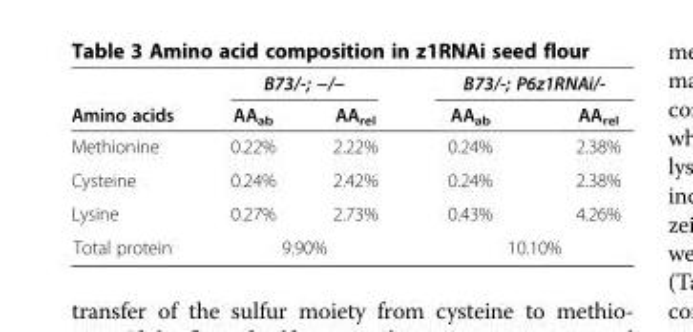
<table><thead><tr><td rowspan="2">Amino acids</td><td colspan="2">B73/-; −/−</td><td colspan="2">B73/-; P6z1RNAi/-</td></tr><tr><td>AA<sub>ab</sub></td><td>AA<sub>rel</sub></td><td>AA<sub>ab</sub></td><td>AA<sub>rel</sub></td></tr></thead><tbody><tr><td>Methionine</td><td>0.22%</td><td>2.22%</td><td>0.24%</td><td>2.38%</td></tr><tr><td>Cysteine</td><td>0.24%</td><td>2.42%</td><td>0.24%</td><td>2.38%</td></tr><tr><td>Lysine</td><td>0.27%</td><td>2.73%</td><td>0.43%</td><td>4.26%</td></tr><tr><td>Total protein</td><td colspan="2">9.90%</td><td colspan="2">10.10%</td></tr></tbody></table>